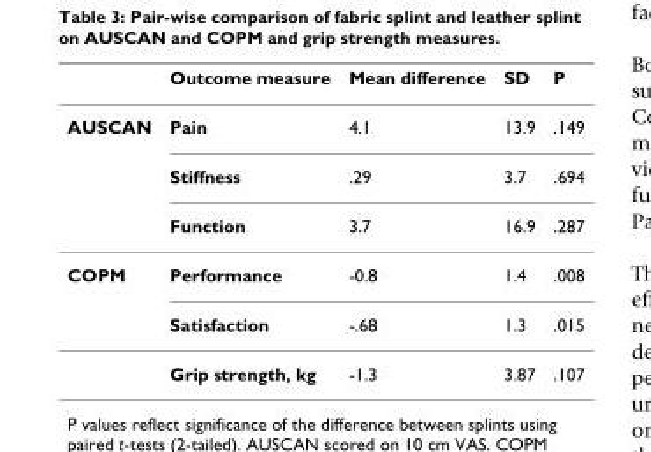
<table><thead><tr><td></td><td>Outcome measure</td><td>Mean difference</td><td>SD</td><td>P</td></tr></thead><tbody><tr><td rowspan="3">AUSCAN</td><td>Pain</td><td>4.1</td><td>13.9</td><td>.149</td></tr><tr><td>Stiffness</td><td>.29</td><td>3.7</td><td>.694</td></tr><tr><td>Function</td><td>3.7</td><td>16.9</td><td>.287</td></tr><tr><td rowspan="3">COPM</td><td>Performance</td><td>-0.8</td><td>1.4</td><td>.008</td></tr><tr><td>Satisfaction</td><td>-.68</td><td>1.3</td><td>.015</td></tr><tr><td>Grip strength, kg</td><td>-1.3</td><td>3.87</td><td>.107</td></tr></tbody></table>